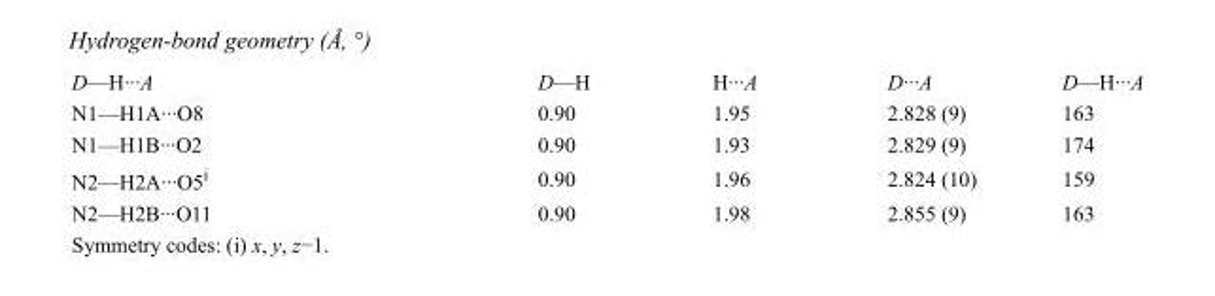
<table><tbody><tr><td>D—H···A</td><td>D—H</td><td>H···A</td><td>D···A</td><td>D—H···A</td></tr><tr><td>N1—H1A···O8</td><td>0.90</td><td>1.95</td><td>2.828 (9)</td><td>163</td></tr><tr><td>N1—H1B···O2</td><td>0.90</td><td>1.93</td><td>2.829 (9)</td><td>174</td></tr><tr><td>N2—H2A···O5<sup>i</sup></td><td>0.90</td><td>1.96</td><td>2.824 (10)</td><td>159</td></tr><tr><td>N2—H2B···O11</td><td>0.90</td><td>1.98</td><td>2.855 (9)</td><td>163</td></tr></tbody></table>